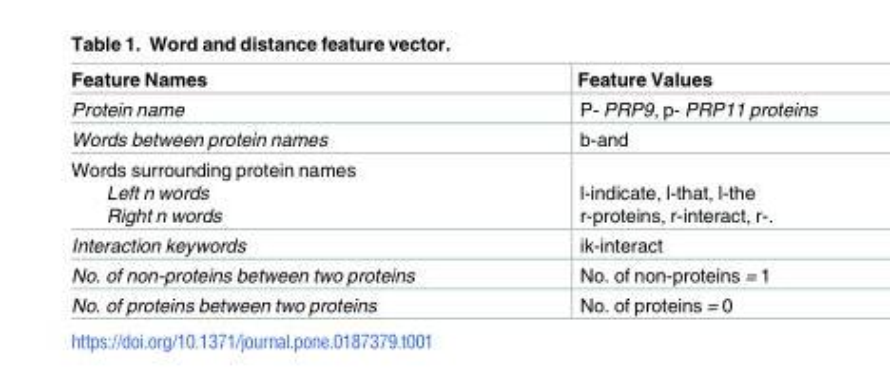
<table><thead><tr><td>Feature Names</td><td>Feature Values</td></tr></thead><tbody><tr><td>Protein name</td><td>P- PRP9, p- PRP11 proteins</td></tr><tr><td>Words between protein names</td><td>b-and</td></tr><tr><td>Words surrounding protein names Left n words Right n words</td><td>l-indicate, l-that, l-the r-proteins, r-interact, r-.</td></tr><tr><td>Interaction keywords</td><td>ik-interact</td></tr><tr><td>No. of non-proteins between two proteins</td><td>No. of non-proteins = 1</td></tr><tr><td>No. of proteins between two proteins</td><td>No. of proteins = 0</td></tr></tbody></table>